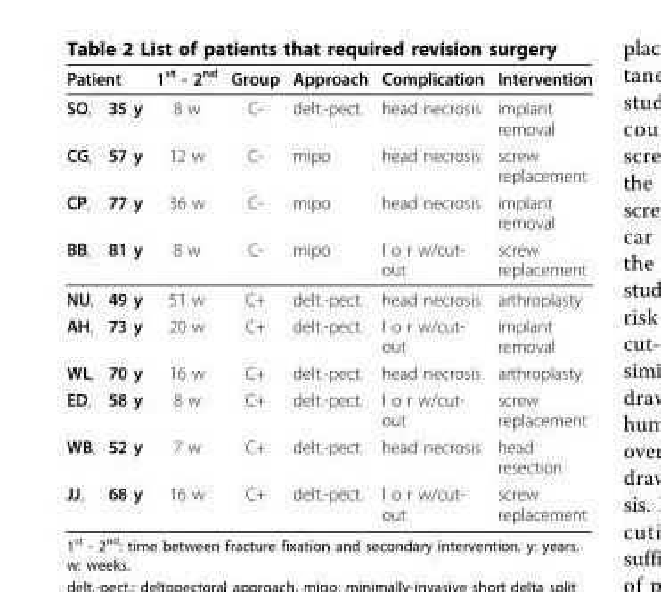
<table><thead><tr><td colspan="2">Patient</td><td rowspan="2">1st - 2nd 8 w</td><td rowspan="2">Group C-</td><td rowspan="2">Approach delt.-pect.</td><td rowspan="2">Complication head necrosis</td><td rowspan="2">Intervention implant removal</td></tr><tr><td>SO,</td><td>35 y</td></tr></thead><tbody><tr><td>CG,</td><td>57 y</td><td>12 w</td><td>C-</td><td>mipo</td><td>head necrosis</td><td>screw replacement</td></tr><tr><td>CP,</td><td>77 y</td><td>36 w</td><td>C-</td><td>mipo</td><td>head necrosis</td><td>implant removal</td></tr><tr><td>BB,</td><td>81 y</td><td>8 w</td><td>C-</td><td>mipo</td><td>l o r w/cut- out</td><td>screw replacement</td></tr><tr><td>NU,</td><td>49 y</td><td>51 w</td><td>C+</td><td>delt.-pect.</td><td>head necrosis</td><td>arthroplasty</td></tr><tr><td>AH,</td><td>73 y</td><td>20 w</td><td>C+</td><td>delt.-pect.</td><td>l o r w/cut- out</td><td>implant removal</td></tr><tr><td>WL,</td><td>70 y</td><td>16 w</td><td>C+</td><td>delt.-pect.</td><td>head necrosis</td><td>arthroplasty</td></tr><tr><td>ED,</td><td>58 y</td><td>8 w</td><td>C+</td><td>delt.-pect.</td><td>l o r w/cut- out</td><td>screw replacement</td></tr><tr><td>WB,</td><td>52 y</td><td>7 w</td><td>C+</td><td>delt.-pect.</td><td>head necrosis</td><td>head resection</td></tr><tr><td>JJ,</td><td>68 y</td><td>16 w</td><td>C+</td><td>delt.-pect.</td><td>l o r w/cut- out</td><td>screw replacement</td></tr></tbody></table>